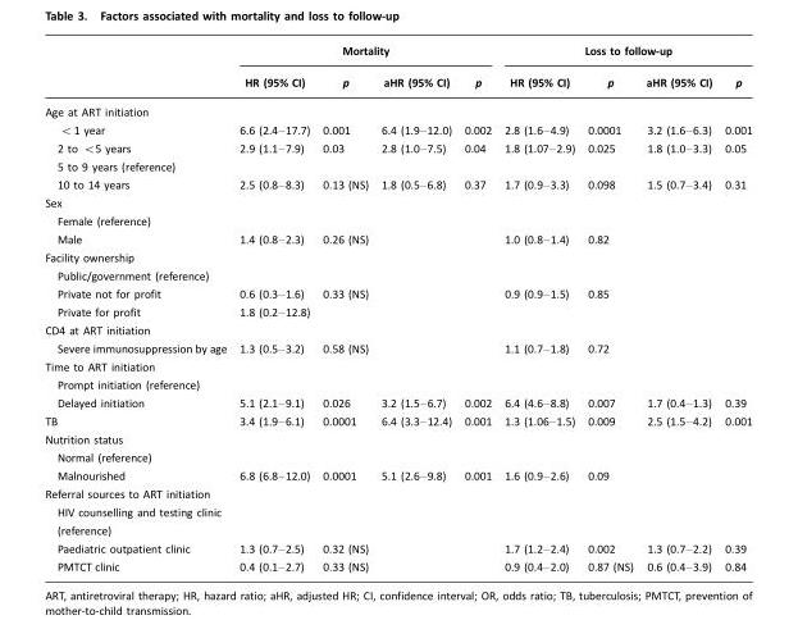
<table><thead><tr><td rowspan="2"></td><td colspan="4">Mortality</td><td colspan="4">Loss to follow-up</td></tr><tr><td>HR (95% CI)</td><td>p</td><td>aHR (95% CI)</td><td>p</td><td>HR (95% CI)</td><td>p</td><td>aHR (95% CI)</td><td>p</td></tr></thead><tbody><tr><td colspan="9">Age at ART initiation</td></tr><tr><td>&lt;1 year</td><td>6.6 (2.4–17.7)</td><td>0.001</td><td>6.4 (1.9–12.0)</td><td>0.002</td><td>2.8 (1.6–4.9)</td><td>0.0001</td><td>3.2 (1.6–6.3)</td><td>0.001</td></tr><tr><td>2 to &lt;5 years</td><td>2.9 (1.1–7.9)</td><td>0.03</td><td>2.8 (1.0–7.5)</td><td>0.04</td><td>1.8 (1.07–2.9)</td><td>0.025</td><td>1.8 (1.0–3.3)</td><td>0.05</td></tr><tr><td colspan="9">5 to 9 years (reference)</td></tr><tr><td>10 to 14 years</td><td>2.5 (0.8–8.3)</td><td>0.13 (NS)</td><td>1.8 (0.5–6.8)</td><td>0.37</td><td>1.7 (0.9–3.3)</td><td>0.098</td><td>1.5 (0.7–3.4)</td><td>0.31</td></tr><tr><td colspan="9">Sex</td></tr><tr><td colspan="9">Female (reference)</td></tr><tr><td>Male</td><td>1.4 (0.8–2.3)</td><td>0.26 (NS)</td><td></td><td></td><td>1.0 (0.8–1.4)</td><td>0.82</td><td></td><td></td></tr><tr><td colspan="9">Facility ownership</td></tr><tr><td colspan="9">Public/government (reference)</td></tr><tr><td>Private not for profit</td><td>0.6 (0.3–1.6)</td><td>0.33 (NS)</td><td></td><td></td><td>0.9 (0.9–1.5)</td><td>0.85</td><td></td><td></td></tr><tr><td>Private for profit</td><td>1.8 (0.2–12.8)</td><td></td><td></td><td></td><td></td><td></td><td></td><td></td></tr><tr><td colspan="9">CD4 at ART initiation</td></tr><tr><td>Severe immunosuppression by age</td><td>1.3 (0.5–3.2)</td><td>0.58 (NS)</td><td></td><td></td><td>1.1 (0.7–1.8)</td><td>0.72</td><td></td><td></td></tr><tr><td colspan="9">Time to ART initiation</td></tr><tr><td colspan="9">Prompt initiation (reference)</td></tr><tr><td>Delayed initiation</td><td>5.1 (2.1–9.1)</td><td>0.026</td><td>3.2 (1.5–6.7)</td><td>0.002</td><td>6.4 (4.6–8.8)</td><td>0.007</td><td>1.7 (0.4–1.3)</td><td>0.39</td></tr><tr><td>TB</td><td>3.4 (1.9–6.1)</td><td>0.0001</td><td>6.4 (3.3–12.4)</td><td>0.001</td><td>1.3 (1.06–1.5)</td><td>0.009</td><td>2.5 (1.5–4.2)</td><td>0.001</td></tr><tr><td colspan="9">Nutrition status</td></tr><tr><td colspan="9">Normal (reference)</td></tr><tr><td>Malnourished</td><td>6.8 (6.8–12.0)</td><td>0.0001</td><td>5.1 (2.6–9.8)</td><td>0.001</td><td>1.6 (0.9–2.6)</td><td>0.09</td><td></td><td></td></tr><tr><td colspan="9">Referral sources to ART initiation</td></tr><tr><td colspan="9">HIV counselling and testing clinic (reference)</td></tr><tr><td>Paediatric outpatient clinic</td><td>1.3 (0.7–2.5)</td><td>0.32 (NS)</td><td></td><td></td><td>1.7 (1.2–2.4)</td><td>0.002</td><td>1.3 (0.7–2.2)</td><td>0.39</td></tr><tr><td>PMTCT clinic</td><td>0.4 (0.1–2.7)</td><td>0.33 (NS)</td><td></td><td></td><td>0.9 (0.4–2.0)</td><td>0.87 (NS)</td><td>0.6 (0.4–3.9)</td><td>0.84</td></tr></tbody></table>